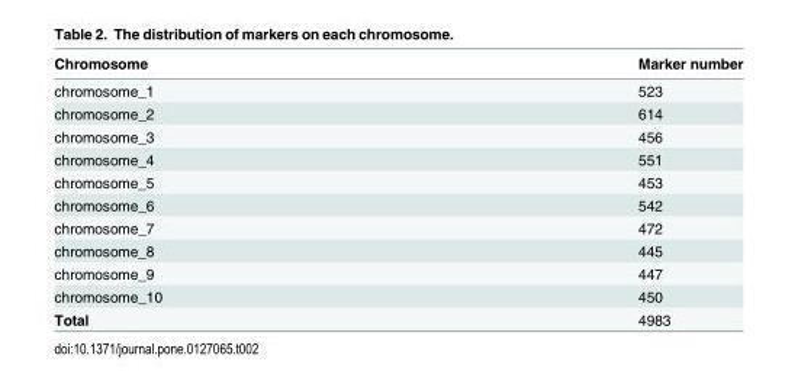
<table><thead><tr><td>Chromosome</td><td>Marker number</td></tr></thead><tbody><tr><td>chromosome_1</td><td>523</td></tr><tr><td>chromosome_2</td><td>614</td></tr><tr><td>chromosome_3</td><td>456</td></tr><tr><td>chromosome_4</td><td>551</td></tr><tr><td>chromosome_5</td><td>453</td></tr><tr><td>chromosome_6</td><td>542</td></tr><tr><td>chromosome_7</td><td>472</td></tr><tr><td>chromosome_8</td><td>445</td></tr><tr><td>chromosome_9</td><td>447</td></tr><tr><td>chromosome_10</td><td>450</td></tr><tr><td>Total</td><td>4983</td></tr></tbody></table>